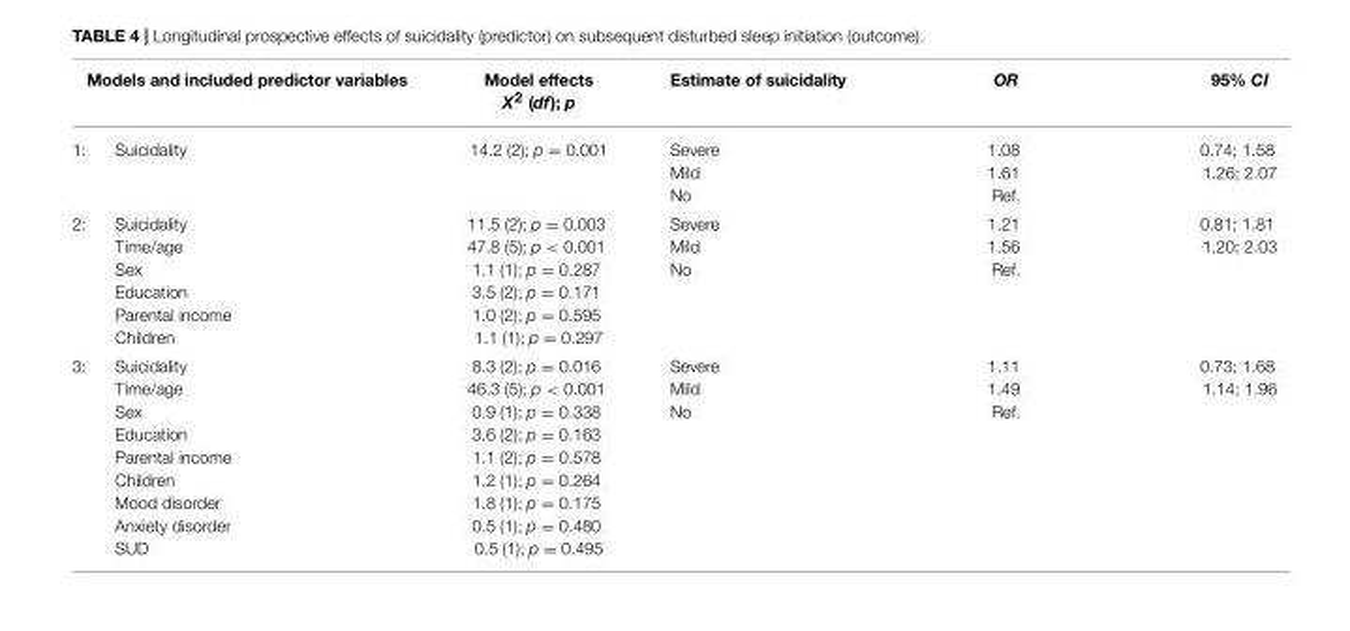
<table><thead><tr><td colspan="2">Models and included predictor variables</td><td rowspan="2">Model effects X<sup>2</sup> (df); p 14.2 (2); p = 0.001</td><td rowspan="2">Estimate of suicidality Severe Mild No</td><td rowspan="2">OR 1.08 1.61 Ref.</td><td rowspan="2">95% CI 0.74; 1.58 1.26; 2.07</td></tr><tr><td>1:</td><td>Suicidality</td></tr></thead><tbody><tr><td>2:</td><td>Suicidality Time/age Sex Education Parental income Children</td><td>11.5 (2); p = 0.003 47.8 (5); p &lt; 0.001 1.1 (1); p = 0.287 3.5 (2); p = 0.171 1.0 (2); p = 0.595 1.1 (1); p = 0.297</td><td>Severe Mild No</td><td>1.21 1.56 Ref.</td><td>0.81; 1.81 1.20; 2.03</td></tr><tr><td>3:</td><td>Suicidality Time/age Sex Education Parental income Children Mood disorder Anxiety disorder SUD</td><td>8.3 (2); p = 0.016 46.3 (5); p &lt; 0.001 0.9 (1); p = 0.338 3.6 (2); p = 0.163 1.1 (2); p = 0.578 1.2 (1); p = 0.264 1.8 (1); p = 0.175 0.5 (1); p = 0.480 0.5 (1); p = 0.495</td><td>Severe Mild No</td><td>1.11 1.49 Ref.</td><td>0.73; 1.68 1.14; 1.96</td></tr></tbody></table>